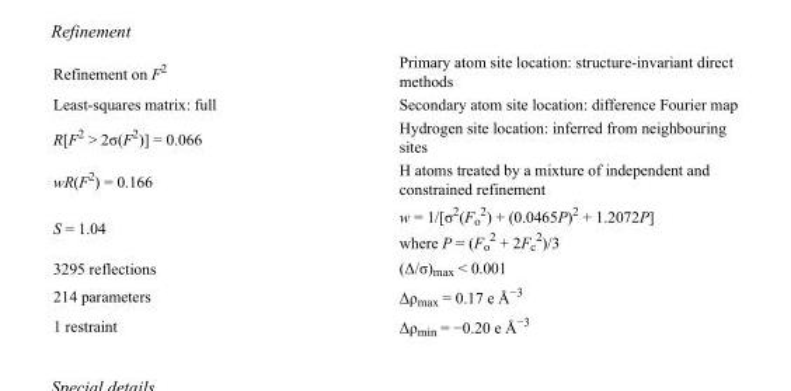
<table><tbody><tr><td>Refinement on F<sup>2</sup></td><td>Primary atom site location: structure-invariant direct methods</td></tr><tr><td>Least-squares matrix: full</td><td>Secondary atom site location: difference Fourier map</td></tr><tr><td>R[F<sup>2</sup> &gt; 2σ(F<sup>2</sup>)] = 0.066</td><td>Hydrogen site location: inferred from neighbouring sites</td></tr><tr><td>wR(F<sup>2</sup>) = 0.166</td><td>H atoms treated by a mixture of independent and constrained refinement</td></tr><tr><td>S = 1.04</td><td>w = 1/[σ<sup>2</sup>(F<sub>o</sub> <sup>2</sup>) + (0.0465P)<sup>2</sup> + 1.2072P] where P = (F<sub>o</sub> <sup>2</sup> + 2F<sub>c</sub> <sup>2</sup>)/3</td></tr><tr><td>3295 reflections</td><td>(Δ/σ)<sub>max</sub> &lt; 0.001</td></tr><tr><td>214 parameters</td><td>Δρ<sub>max</sub> = 0.17 e Å<sup>−3</sup></td></tr><tr><td>1 restraint</td><td>Δρ<sub>min</sub> = −0.20 e Å<sup>−3</sup></td></tr></tbody></table>